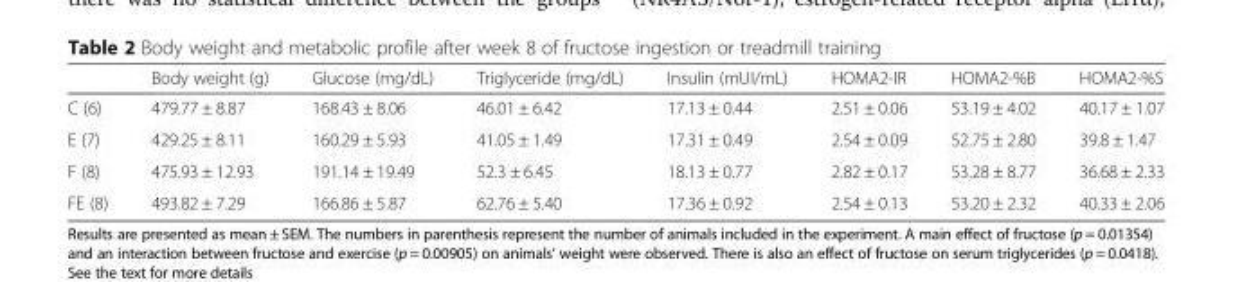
<table><thead><tr><td></td><td>Body weight (g)</td><td>Glucose (mg/dL)</td><td>Triglyceride (mg/dL)</td><td>Insulin (mUI/mL)</td><td>HOMA2-IR</td><td>HOMA2-%B</td><td>HOMA2-%S</td></tr></thead><tbody><tr><td>C (6)</td><td>479.77 ± 8.87</td><td>168.43 ± 8.06</td><td>46.01 ± 6.42</td><td>17.13 ± 0.44</td><td>2.51 ± 0.06</td><td>53.19 ± 4.02</td><td>40.17 ± 1.07</td></tr><tr><td>E (7)</td><td>429.25 ± 8.11</td><td>160.29 ± 5.93</td><td>41.05 ± 1.49</td><td>17.31 ± 0.49</td><td>2.54 ± 0.09</td><td>52.75 ± 2.80</td><td>39.8 ± 1.47</td></tr><tr><td>F (8)</td><td>475.93 ± 12.93</td><td>191.14 ± 19.49</td><td>52.3 ± 6.45</td><td>18.13 ± 0.77</td><td>2.82 ± 0.17</td><td>53.28 ± 8.77</td><td>36.68 ± 2.33</td></tr><tr><td>FE (8)</td><td>493.82 ± 7.29</td><td>166.86 ± 5.87</td><td>62.76 ± 5.40</td><td>17.36 ± 0.92</td><td>2.54 ± 0.13</td><td>53.20 ± 2.32</td><td>40.33 ± 2.06</td></tr></tbody></table>